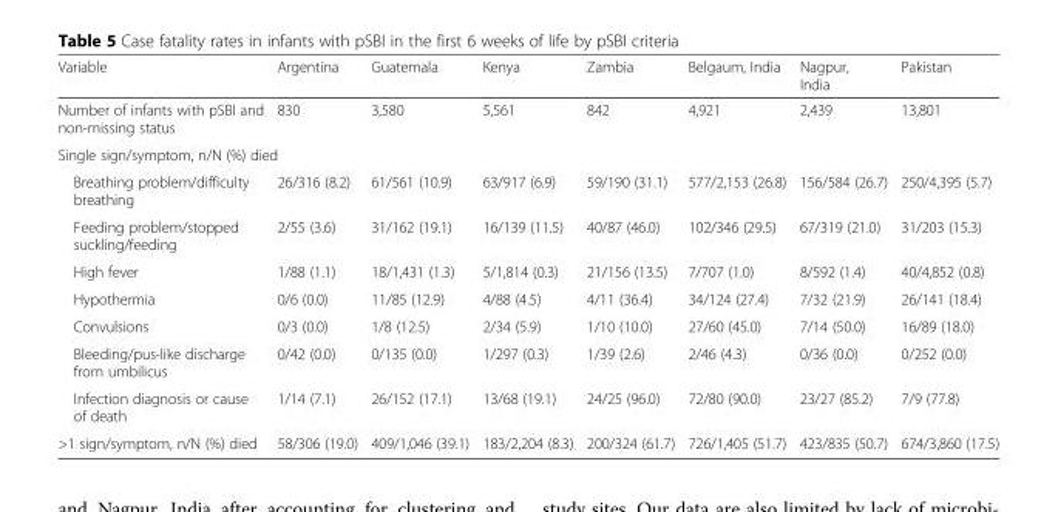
<table><thead><tr><td>Variable</td><td>Argentina</td><td>Guatemala</td><td>Kenya</td><td>Zambia</td><td>Belgaum, India</td><td>Nagpur, India</td><td>Pakistan</td></tr></thead><tbody><tr><td>Number of infants with pSBI and non-missing status</td><td>830</td><td>3,580</td><td>5,561</td><td>842</td><td>4,921</td><td>2,439</td><td>13,801</td></tr><tr><td colspan="8">Single sign/symptom, n/N (%) died</td></tr><tr><td>Breathing problem/difficulty breathing</td><td>26/316 (8.2)</td><td>61/561 (10.9)</td><td>63/917 (6.9)</td><td>59/190 (31.1)</td><td>577/2,153 (26.8)</td><td>156/584 (26.7)</td><td>250/4,395 (5.7)</td></tr><tr><td>Feeding problem/stopped suckling/feeding</td><td>2/55 (3.6)</td><td>31/162 (19.1)</td><td>16/139 (11.5)</td><td>40/87 (46.0)</td><td>102/346 (29.5)</td><td>67/319 (21.0)</td><td>31/203 (15.3)</td></tr><tr><td>High fever</td><td>1/88 (1.1)</td><td>18/1,431 (1.3)</td><td>5/1,814 (0.3)</td><td>21/156 (13.5)</td><td>7/707 (1.0)</td><td>8/592 (1.4)</td><td>40/4,852 (0.8)</td></tr><tr><td>Hypothermia</td><td>0/6 (0.0)</td><td>11/85 (12.9)</td><td>4/88 (4.5)</td><td>4/11 (36.4)</td><td>34/124 (27.4)</td><td>7/32 (21.9)</td><td>26/141 (18.4)</td></tr><tr><td>Convulsions</td><td>0/3 (0.0)</td><td>1/8 (12.5)</td><td>2/34 (5.9)</td><td>1/10 (10.0)</td><td>27/60 (45.0)</td><td>7/14 (50.0)</td><td>16/89 (18.0)</td></tr><tr><td>Bleeding/pus-like discharge from umbilicus</td><td>0/42 (0.0)</td><td>0/135 (0.0)</td><td>1/297 (0.3)</td><td>1/39 (2.6)</td><td>2/46 (4.3)</td><td>0/36 (0.0)</td><td>0/252 (0.0)</td></tr><tr><td>Infection diagnosis or cause of death</td><td>1/14 (7.1)</td><td>26/152 (17.1)</td><td>13/68 (19.1)</td><td>24/25 (96.0)</td><td>72/80 (90.0)</td><td>23/27 (85.2)</td><td>7/9 (77.8)</td></tr><tr><td>&gt;1 sign/symptom, n/N (%) died</td><td>58/306 (19.0)</td><td>409/1,046 (39.1)</td><td>183/2,204 (8.3)</td><td>200/324 (61.7)</td><td>726/1,405 (51.7)</td><td>423/835 (50.7)</td><td>674/3,860 (17.5)</td></tr></tbody></table>